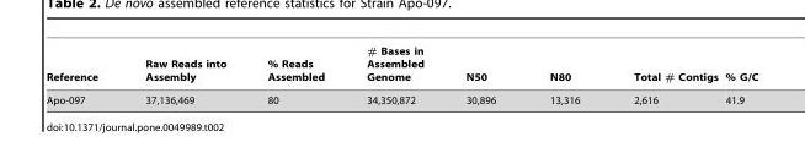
<table><thead><tr><td>Reference</td><td>Raw Reads into Assembly</td><td>% Reads Assembled</td><td># Bases in Assembled Genome</td><td>N50</td><td>N80</td><td>Total # Contigs</td><td>% G/C</td></tr></thead><tbody><tr><td>Apo-097</td><td>37,136,469</td><td>80</td><td>34,350,872</td><td>30,896</td><td>13,316</td><td>2,616</td><td>41.9</td></tr></tbody></table>